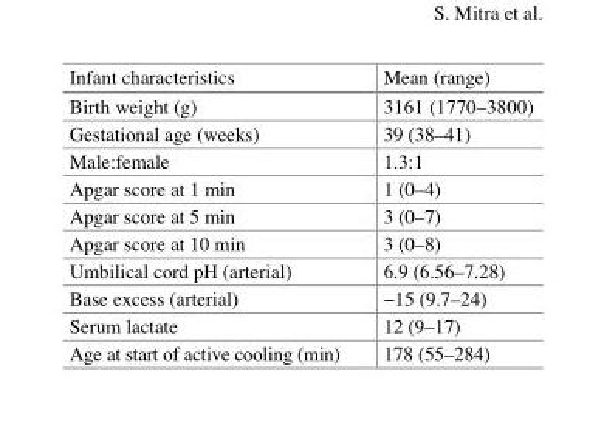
<table><thead><tr><td>Infant characteristics</td><td>Mean (range)</td></tr></thead><tbody><tr><td>Birth weight (g)</td><td>3161 (1770–3800)</td></tr><tr><td>Gestational age (weeks)</td><td>39 (38–41)</td></tr><tr><td>Male:female</td><td>1.3:1</td></tr><tr><td>Apgar score at 1 min</td><td>1 (0–4)</td></tr><tr><td>Apgar score at 5 min</td><td>3 (0–7)</td></tr><tr><td>Apgar score at 10 min</td><td>3 (0–8)</td></tr><tr><td>Umbilical cord pH (arterial)</td><td>6.9 (6.56–7.28)</td></tr><tr><td>Base excess (arterial)</td><td>−15 (9.7–24)</td></tr><tr><td>Serum lactate</td><td>12 (9–17)</td></tr><tr><td>Age at start of active cooling (min)</td><td>178 (55–284)</td></tr></tbody></table>